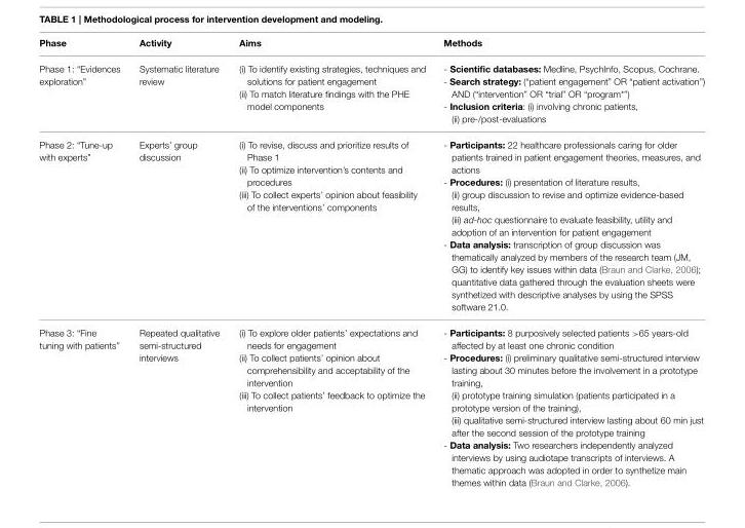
<table><thead><tr><td>Phase</td><td>Activity</td><td>Aims</td><td>Methods</td></tr></thead><tbody><tr><td>Phase 1: “Evidences exploration”</td><td>Systematic literature review</td><td>(i) To identify existing strategies, techniques and solutions for patient engagement (ii) To match literature findings with the PHE model components</td><td>- Scientific databases: Medline, PsychInfo, Scopus, Cochrane. - Search strategy: (“patient engagement” OR “patient activation”) AND (“intervention” OR “trial” OR “program*”) - Inclusion criteria: (i) involving chronic patients, (ii) pre-/post-evaluations</td></tr><tr><td>Phase 2: “Tune-up with experts”</td><td>Experts’ group discussion</td><td>(i) To revise, discuss and prioritize results of Phase 1 (ii) To optimize intervention’s contents and procedures (iii) To collect experts’ opinion about feasibility of the interventions’ components</td><td>- Participants: 22 healthcare professionals caring for older patients trained in patient engagement theories, measures, and actions - Procedures: (i) presentation of literature results, (ii) group discussion to revise and optimize evidence-based results, (iii) ad-hoc questionnaire to evaluate feasibility, utility and adoption of an intervention for patient engagement - Data analysis: transcription of group discussion was thematically analyzed by members of the research team (JM, GG) to identify key issues within data (Braun and Clarke, 2006); quantitative data gathered through the evaluation sheets were synthetized with descriptive analyses by using the SPSS software 21.0.</td></tr><tr><td>Phase 3: “Fine tuning with patients”</td><td>Repeated qualitative semi-structured interviews</td><td>(i) To explore older patients’ expectations and needs for engagement (ii) To collect patients’ opinion about comprehensibility and acceptability of the intervention (iii) To collect patients’ feedback to optimize the intervention</td><td>- Participants: 8 purposively selected patients &gt;65 years-old affected by at least one chronic condition - Procedures: (i) preliminary qualitative semi-structured interview lasting about 30 minutes before the involvement in a prototype training, (ii) prototype training simulation (patients participated in a prototype version of the training), (iii) qualitative semi-structured interview lasting about 60 min just after the second session of the prototype training - Data analysis: Two researchers independently analyzed interviews by using audiotape transcripts of interviews. A thematic approach was adopted in order to synthetize main themes within data (Braun and Clarke, 2006).</td></tr></tbody></table>